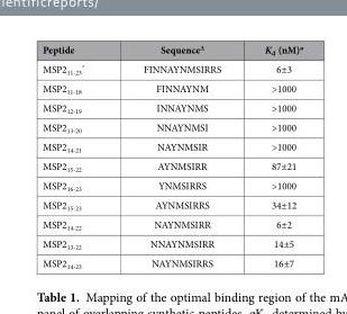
<table><thead><tr><td>Peptide</td><td>Sequence∆</td><td>K<sub>d</sub> (nM)<sup>ø</sup></td></tr></thead><tbody><tr><td>MSP2<sub>11-23</sub> *</td><td>FINNAYNMSIRRS</td><td>6±3</td></tr><tr><td>MSP2<sub>11-18</sub></td><td>FINNAYNM</td><td>&gt;1000</td></tr><tr><td>MSP2<sub>12-19</sub></td><td>INNAYNMS</td><td>&gt;1000</td></tr><tr><td>MSP2<sub>13-20</sub></td><td>NNAYNMSI</td><td>&gt;1000</td></tr><tr><td>MSP2<sub>14-21</sub></td><td>NAYNMSIR</td><td>&gt;1000</td></tr><tr><td>MSP2<sub>15-22</sub></td><td>AYNMSIRR</td><td>87±21</td></tr><tr><td>MSP2<sub>16-23</sub></td><td>YNMSIRRS</td><td>&gt;1000</td></tr><tr><td>MSP2<sub>15-23</sub></td><td>AYNMSIRRS</td><td>34±12</td></tr><tr><td>MSP2<sub>14-22</sub></td><td>NAYNMSIRR</td><td>6±2</td></tr><tr><td>MSP2<sub>13-22</sub></td><td>NNAYNMSIRR</td><td>14±5</td></tr><tr><td>MSP2<sub>14-23</sub></td><td>NAYNMSIRRS</td><td>16±7</td></tr></tbody></table>